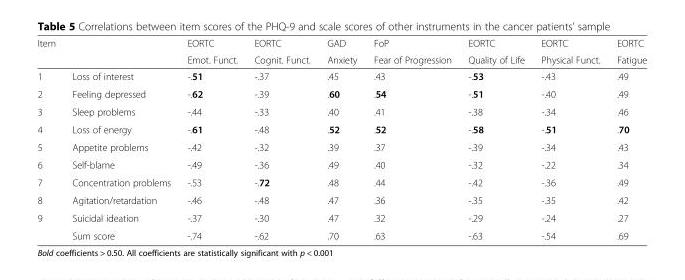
<table><thead><tr><td rowspan="2">Item</td><td rowspan="2"></td><td rowspan="2">EORTC Emot. Funct.</td><td rowspan="2">EORTC Cognit. Funct.</td><td rowspan="2">GAD Anxiety</td><td rowspan="2">FoP Fear of Progression</td><td rowspan="2">EORTC Quality of Life</td><td rowspan="2">EORTC Physical Funct.</td><td rowspan="2">EORTC Fatigue</td></tr><tr></tr></thead><tbody><tr><td>1</td><td>Loss of interest</td><td>-.51</td><td>-.37</td><td>.45</td><td>.43</td><td>-.53</td><td>-.43</td><td>.49</td></tr><tr><td>2</td><td>Feeling depressed</td><td>-.62</td><td>-.39</td><td>.60</td><td>.54</td><td>-.51</td><td>-.40</td><td>.49</td></tr><tr><td>3</td><td>Sleep problems</td><td>-.44</td><td>-.33</td><td>.40</td><td>.41</td><td>-.38</td><td>-.34</td><td>.46</td></tr><tr><td>4</td><td>Loss of energy</td><td>-.61</td><td>-.48</td><td>.52</td><td>.52</td><td>-.58</td><td>-.51</td><td>.70</td></tr><tr><td>5</td><td>Appetite problems</td><td>-.42</td><td>-.32</td><td>.39</td><td>.37</td><td>-.39</td><td>-.34</td><td>.43</td></tr><tr><td>6</td><td>Self-blame</td><td>-.49</td><td>-.36</td><td>.49</td><td>.40</td><td>-.32</td><td>-.22</td><td>.34</td></tr><tr><td>7</td><td>Concentration problems</td><td>-.53</td><td>-.72</td><td>.48</td><td>.44</td><td>-.42</td><td>-.36</td><td>.49</td></tr><tr><td>8</td><td>Agitation/retardation</td><td>-.46</td><td>-.48</td><td>.47</td><td>.36</td><td>-.35</td><td>-.35</td><td>.42</td></tr><tr><td rowspan="2">9</td><td>Suicidal ideation</td><td>-.37</td><td>-.30</td><td>.47</td><td>.32</td><td>-.29</td><td>-.24</td><td>.27</td></tr><tr><td>Sum score</td><td>-.74</td><td>-.62</td><td>.70</td><td>.63</td><td>-.63</td><td>-.54</td><td>.69</td></tr></tbody></table>